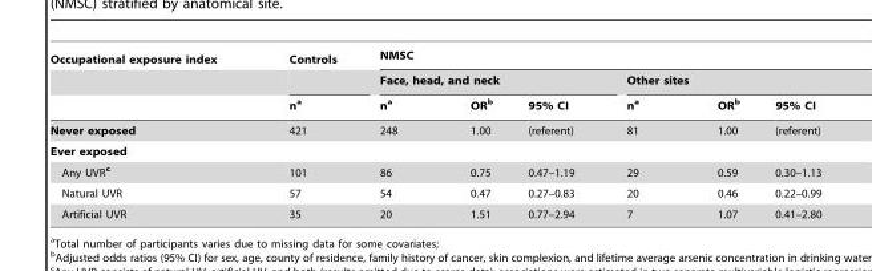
<table><thead><tr><td rowspan="3">Occupational exposure index</td><td rowspan="3">Controls n<sup>a</sup></td><td colspan="6">NMSC</td></tr><tr><td colspan="3">Face, head, and neck</td><td colspan="3">Other sites</td></tr><tr><td>n<sup>a</sup></td><td>OR<sup>b</sup></td><td>95% CI</td><td>n<sup>a</sup></td><td>OR<sup>b</sup></td><td>95% CI</td></tr></thead><tbody><tr><td>Never exposed</td><td>421</td><td>248</td><td>1.00</td><td>(referent)</td><td>81</td><td>1.00</td><td>(referent)</td></tr><tr><td colspan="8">Ever exposed</td></tr><tr><td>Any UVR<sup>c</sup></td><td>101</td><td>86</td><td>0.75</td><td>0.47–1.19</td><td>29</td><td>0.59</td><td>0.30–1.13</td></tr><tr><td>Natural UVR</td><td>57</td><td>54</td><td>0.47</td><td>0.27–0.83</td><td>20</td><td>0.46</td><td>0.22–0.99</td></tr><tr><td>Artificial UVR</td><td>35</td><td>20</td><td>1.51</td><td>0.77–2.94</td><td>7</td><td>1.07</td><td>0.41–2.80</td></tr></tbody></table>